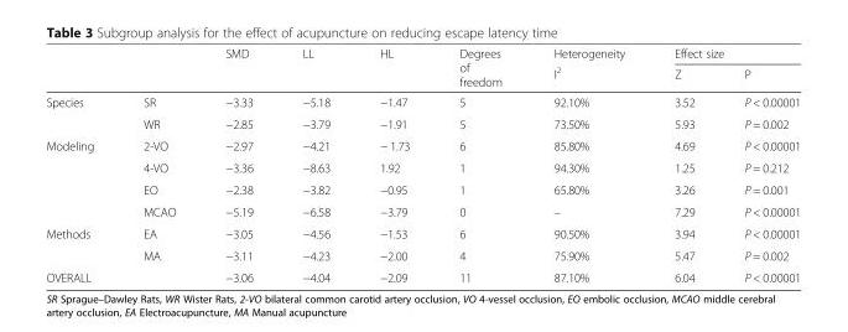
<table><thead><tr><td rowspan="2"></td><td rowspan="2"></td><td rowspan="2">SMD</td><td rowspan="2">LL</td><td rowspan="2">HL</td><td rowspan="2">Degrees of freedom</td><td rowspan="2">Heterogeneity I<sup>2</sup></td><td colspan="2">Effect size</td></tr><tr><td>Z</td><td>P</td></tr></thead><tbody><tr><td rowspan="2">Species</td><td>SR</td><td>−3.33</td><td>−5.18</td><td>−1.47</td><td>5</td><td>92.10%</td><td>3.52</td><td>P &lt; 0.00001</td></tr><tr><td>WR</td><td>−2.85</td><td>−3.79</td><td>−1.91</td><td>5</td><td>73.50%</td><td>5.93</td><td>P = 0.002</td></tr><tr><td rowspan="4">Modeling</td><td>2-VO</td><td>−2.97</td><td>−4.21</td><td>− 1.73</td><td>6</td><td>85.80%</td><td>4.69</td><td>P &lt; 0.00001</td></tr><tr><td>4-VO</td><td>−3.36</td><td>−8.63</td><td>1.92</td><td>1</td><td>94.30%</td><td>1.25</td><td>P = 0.212</td></tr><tr><td>EO</td><td>−2.38</td><td>−3.82</td><td>−0.95</td><td>1</td><td>65.80%</td><td>3.26</td><td>P = 0.001</td></tr><tr><td>MCAO</td><td>−5.19</td><td>−6.58</td><td>−3.79</td><td>0</td><td>–</td><td>7.29</td><td>P &lt; 0.00001</td></tr><tr><td rowspan="2">Methods</td><td>EA</td><td>−3.05</td><td>−4.56</td><td>−1.53</td><td>6</td><td>90.50%</td><td>3.94</td><td>P &lt; 0.00001</td></tr><tr><td>MA</td><td>−3.11</td><td>−4.23</td><td>−2.00</td><td>4</td><td>75.90%</td><td>5.47</td><td>P = 0.002</td></tr><tr><td colspan="2">OVERALL</td><td>−3.06</td><td>−4.04</td><td>−2.09</td><td>11</td><td>87.10%</td><td>6.04</td><td>P &lt; 0.00001</td></tr></tbody></table>